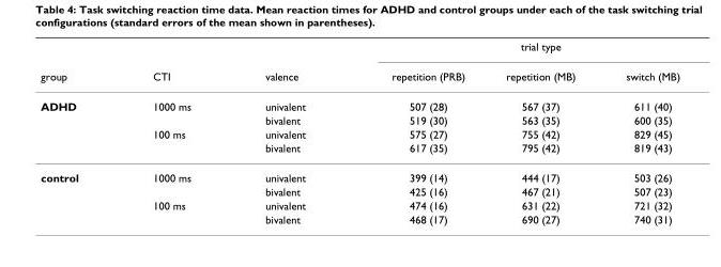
<table><thead><tr><td rowspan="2">group</td><td rowspan="2">CTI</td><td rowspan="2">valence</td><td colspan="3">trial type</td></tr><tr><td>repetition (PRB)</td><td>repetition (MB)</td><td>switch (MB)</td></tr></thead><tbody><tr><td rowspan="4">ADHD</td><td>1000 ms</td><td>univalent</td><td>507 (28)</td><td>567 (37)</td><td>611 (40)</td></tr><tr><td></td><td>bivalent</td><td>519 (30)</td><td>563 (35)</td><td>600 (35)</td></tr><tr><td>100 ms</td><td>univalent</td><td>575 (27)</td><td>755 (42)</td><td>829 (45)</td></tr><tr><td></td><td>bivalent</td><td>617 (35)</td><td>795 (42)</td><td>819 (43)</td></tr><tr><td rowspan="4">control</td><td>1000 ms</td><td>univalent</td><td>399 (14)</td><td>444 (17)</td><td>503 (26)</td></tr><tr><td></td><td>bivalent</td><td>425 (16)</td><td>467 (21)</td><td>507 (23)</td></tr><tr><td>100 ms</td><td>univalent</td><td>474 (16)</td><td>631 (22)</td><td>721 (32)</td></tr><tr><td></td><td>bivalent</td><td>468 (17)</td><td>690 (27)</td><td>740 (31)</td></tr></tbody></table>